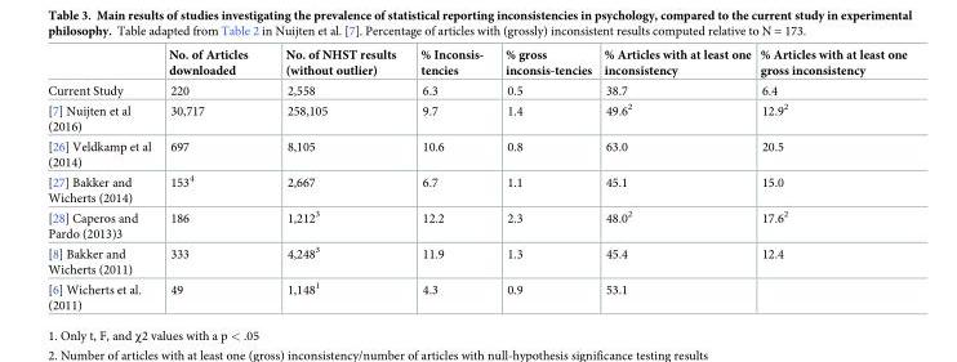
<table><thead><tr><td></td><td>No. of Articles downloaded</td><td>No. of NHST results (without outlier)</td><td>% Inconsis- tencies</td><td>% gross inconsis-tencies</td><td>% Articles with at least one inconsistency</td><td>% Articles with at least one gross inconsistency</td></tr></thead><tbody><tr><td>Current Study</td><td>220</td><td>2,558</td><td>6.3</td><td>0.5</td><td>38.7</td><td>6.4</td></tr><tr><td>[7] Nuijten et al (2016)</td><td>30,717</td><td>258,105</td><td>9.7</td><td>1.4</td><td>49.6<sup>2</sup></td><td>12.9<sup>2</sup></td></tr><tr><td>[26] Veldkamp et al (2014)</td><td>697</td><td>8,105</td><td>10.6</td><td>0.8</td><td>63.0</td><td>20.5</td></tr><tr><td>[27] Bakker and Wicherts (2014)</td><td>153<sup>4</sup></td><td>2,667</td><td>6.7</td><td>1.1</td><td>45.1</td><td>15.0</td></tr><tr><td>[28] Caperos and Pardo (2013)3</td><td>186</td><td>1,212<sup>3</sup></td><td>12.2</td><td>2.3</td><td>48.0<sup>2</sup></td><td>17.6<sup>2</sup></td></tr><tr><td>[8] Bakker and Wicherts (2011)</td><td>333</td><td>4,248<sup>3</sup></td><td>11.9</td><td>1.3</td><td>45.4</td><td>12.4</td></tr><tr><td>[6] Wicherts et al. (2011)</td><td>49</td><td>1,148<sup>1</sup></td><td>4.3</td><td>0.9</td><td>53.1</td><td></td></tr></tbody></table>